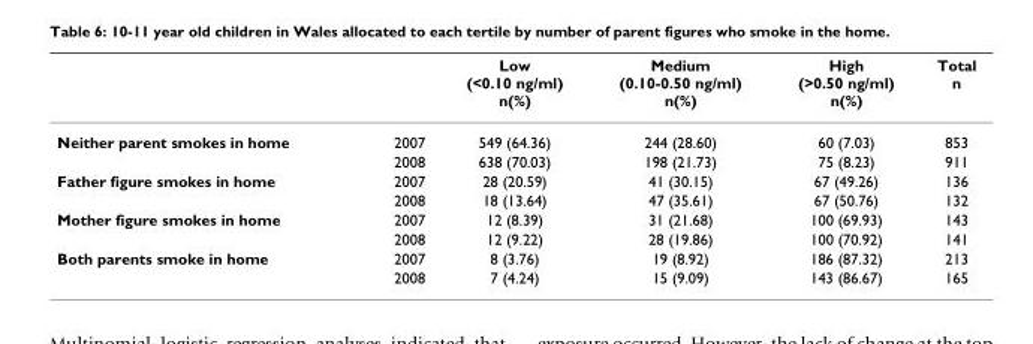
<table><thead><tr><td></td><td></td><td>Low (&lt;0.10 ng/ml) n(%)</td><td>Medium (0.10-0.50 ng/ml) n(%)</td><td>High (&gt;0.50 ng/ml) n(%)</td><td>Total n</td></tr></thead><tbody><tr><td rowspan="2">Neither parent smokes in home</td><td>2007</td><td>549 (64.36)</td><td>244 (28.60)</td><td>60 (7.03)</td><td>853</td></tr><tr><td>2008</td><td>638 (70.03)</td><td>198 (21.73)</td><td>75 (8.23)</td><td>911</td></tr><tr><td rowspan="2">Father figure smokes in home</td><td>2007</td><td>28 (20.59)</td><td>41 (30.15)</td><td>67 (49.26)</td><td>136</td></tr><tr><td>2008</td><td>18 (13.64)</td><td>47 (35.61)</td><td>67 (50.76)</td><td>132</td></tr><tr><td rowspan="2">Mother figure smokes in home</td><td>2007</td><td>12 (8.39)</td><td>31 (21.68)</td><td>100 (69.93)</td><td>143</td></tr><tr><td>2008</td><td>12 (9.22)</td><td>28 (19.86)</td><td>100 (70.92)</td><td>141</td></tr><tr><td rowspan="2">Both parents smoke in home</td><td>2007</td><td>8 (3.76)</td><td>19 (8.92)</td><td>186 (87.32)</td><td>213</td></tr><tr><td>2008</td><td>7 (4.24)</td><td>15 (9.09)</td><td>143 (86.67)</td><td>165</td></tr></tbody></table>